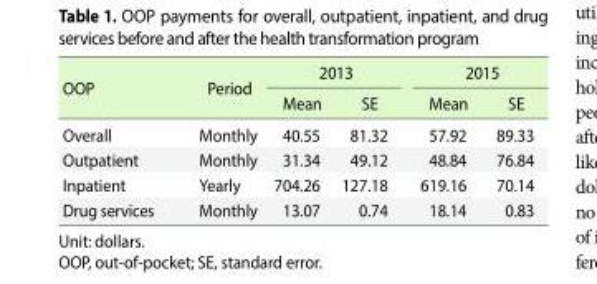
<table><thead><tr><td rowspan="2">OOP</td><td rowspan="2">Period</td><td colspan="2">2013</td><td colspan="2">2015</td></tr><tr><td>Mean</td><td>SE</td><td>Mean</td><td>SE</td></tr></thead><tbody><tr><td>Overall</td><td>Monthly</td><td>40.55</td><td>81.32</td><td>57.92</td><td>89.33</td></tr><tr><td>Outpatient</td><td>Monthly</td><td>31.34</td><td>49.12</td><td>48.84</td><td>76.84</td></tr><tr><td>Inpatient</td><td>Yearly</td><td>704.26</td><td>127.18</td><td>619.16</td><td>70.14</td></tr><tr><td>Drug services</td><td>Monthly</td><td>13.07</td><td>0.74</td><td>18.14</td><td>0.83</td></tr></tbody></table>